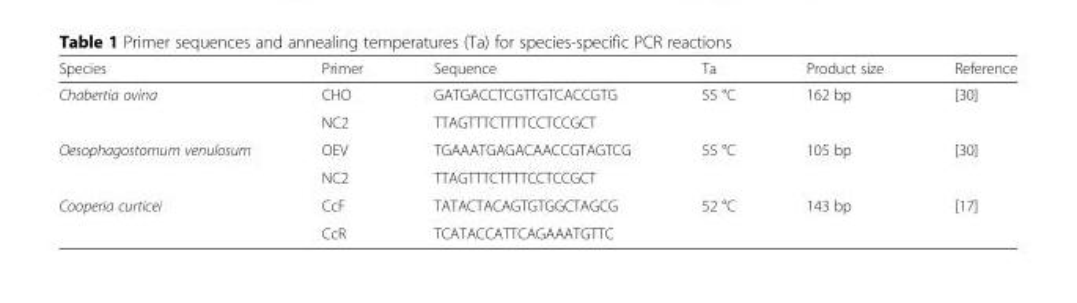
<table><thead><tr><td>Species</td><td>Primer</td><td>Sequence</td><td>Ta</td><td>Product size</td><td>Reference</td></tr></thead><tbody><tr><td rowspan="2">Chabertia ovina</td><td>CHO</td><td>GATGACCTCGTTGTCACCGTG</td><td rowspan="2">55 °C</td><td rowspan="2">162 bp</td><td rowspan="2">[30]</td></tr><tr><td>NC2</td><td>TTAGTTTCTTTTCCTCCGCT</td></tr><tr><td rowspan="2">Oesophagostomum venulosum</td><td>OEV</td><td>TGAAATGAGACAACCGTAGTCG</td><td rowspan="2">55 °C</td><td rowspan="2">105 bp</td><td rowspan="2">[30]</td></tr><tr><td>NC2</td><td>TTAGTTTCTTTTCCTCCGCT</td></tr><tr><td rowspan="2">Cooperia curticei</td><td>CcF</td><td>TATACTACAGTGTGGCTAGCG</td><td rowspan="2">52 °C</td><td rowspan="2">143 bp</td><td rowspan="2">[17]</td></tr><tr><td>CcR</td><td>TCATACCATTCAGAAATGTTC</td></tr></tbody></table>